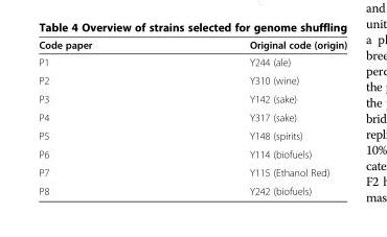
<table><thead><tr><td>Code paper</td><td>Original code (origin)</td></tr></thead><tbody><tr><td>P1</td><td>Y244 (ale)</td></tr><tr><td>P2</td><td>Y310 (wine)</td></tr><tr><td>P3</td><td>Y142 (sake)</td></tr><tr><td>P4</td><td>Y317 (sake)</td></tr><tr><td>P5</td><td>Y148 (spirits)</td></tr><tr><td>P6</td><td>Y114 (biofuels)</td></tr><tr><td>P7</td><td>Y115 (Ethanol Red)</td></tr><tr><td>P8</td><td>Y242 (biofuels)</td></tr></tbody></table>